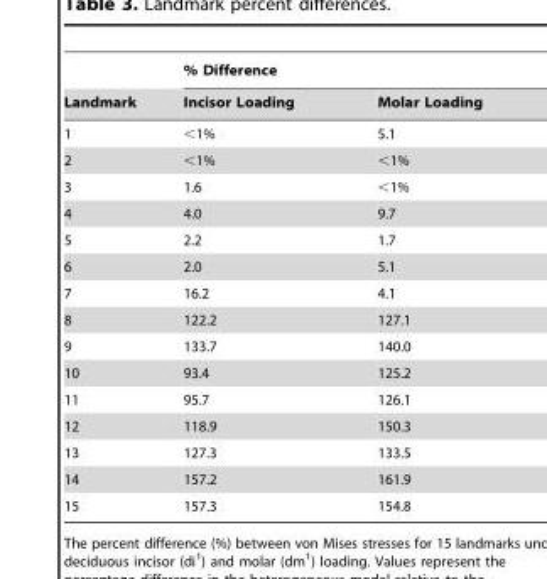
<table><thead><tr><td rowspan="2">Landmark</td><td colspan="2">% Difference</td></tr><tr><td>Incisor Loading</td><td>Molar Loading</td></tr></thead><tbody><tr><td>1</td><td>&lt;1%</td><td>5.1</td></tr><tr><td>2</td><td>&lt;1%</td><td>&lt;1%</td></tr><tr><td>3</td><td>1.6</td><td>&lt;1%</td></tr><tr><td>4</td><td>4.0</td><td>9.7</td></tr><tr><td>5</td><td>2.2</td><td>1.7</td></tr><tr><td>6</td><td>2.0</td><td>5.1</td></tr><tr><td>7</td><td>16.2</td><td>4.1</td></tr><tr><td>8</td><td>122.2</td><td>127.1</td></tr><tr><td>9</td><td>133.7</td><td>140.0</td></tr><tr><td>10</td><td>93.4</td><td>125.2</td></tr><tr><td>11</td><td>95.7</td><td>126.1</td></tr><tr><td>12</td><td>118.9</td><td>150.3</td></tr><tr><td>13</td><td>127.3</td><td>133.5</td></tr><tr><td>14</td><td>157.2</td><td>161.9</td></tr><tr><td>15</td><td>157.3</td><td>154.8</td></tr></tbody></table>